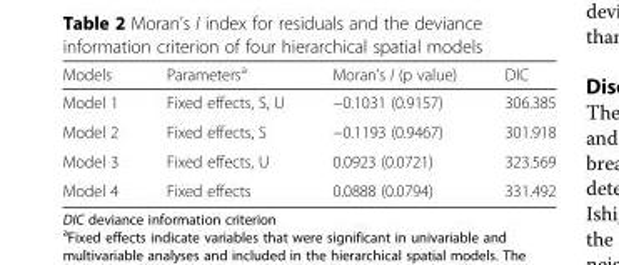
<table><thead><tr><td>Models</td><td>Parameters<sup>a</sup></td><td>Moran’s I (p value)</td><td>DIC</td></tr></thead><tbody><tr><td>Model 1</td><td>Fixed effects, S, U</td><td>−0.1031 (0.9157)</td><td>306.385</td></tr><tr><td>Model 2</td><td>Fixed effects, S</td><td>−0.1193 (0.9467)</td><td>301.918</td></tr><tr><td>Model 3</td><td>Fixed effects, U</td><td>0.0923 (0.0721)</td><td>323.569</td></tr><tr><td>Model 4</td><td>Fixed effects</td><td>0.0888 (0.0794)</td><td>331.492</td></tr></tbody></table>